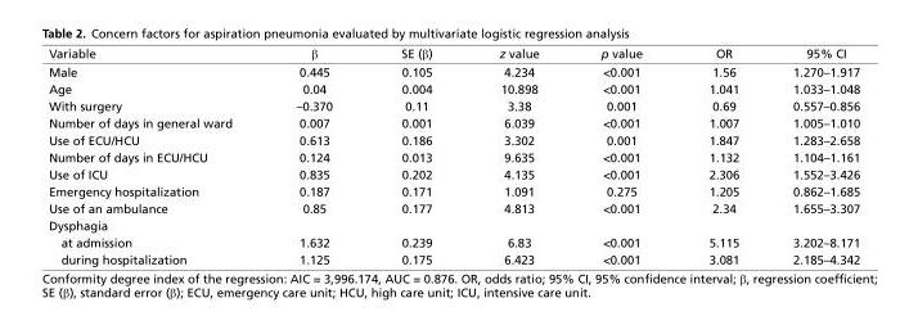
<table><thead><tr><td>Variable</td><td>β</td><td>SE (β)</td><td>z value</td><td>p value</td><td>OR</td><td>95% CI</td></tr></thead><tbody><tr><td>Male</td><td>0.445</td><td>0.105</td><td>4.234</td><td>&lt;0.001</td><td>1.56</td><td>1.270–1.917</td></tr><tr><td>Age</td><td>0.04</td><td>0.004</td><td>10.898</td><td>&lt;0.001</td><td>1.041</td><td>1.033–1.048</td></tr><tr><td>With surgery</td><td>–0.370</td><td>0.11</td><td>3.38</td><td>0.001</td><td>0.69</td><td>0.557–0.856</td></tr><tr><td>Number of days in general ward</td><td>0.007</td><td>0.001</td><td>6.039</td><td>&lt;0.001</td><td>1.007</td><td>1.005–1.010</td></tr><tr><td>Use of ECU/HCU</td><td>0.613</td><td>0.186</td><td>3.302</td><td>0.001</td><td>1.847</td><td>1.283–2.658</td></tr><tr><td>Number of days in ECU/HCU</td><td>0.124</td><td>0.013</td><td>9.635</td><td>&lt;0.001</td><td>1.132</td><td>1.104–1.161</td></tr><tr><td>Use of ICU</td><td>0.835</td><td>0.202</td><td>4.135</td><td>&lt;0.001</td><td>2.306</td><td>1.552–3.426</td></tr><tr><td>Emergency hospitalization</td><td>0.187</td><td>0.171</td><td>1.091</td><td>0.275</td><td>1.205</td><td>0.862–1.685</td></tr><tr><td>Use of an ambulance</td><td>0.85</td><td>0.177</td><td>4.813</td><td>&lt;0.001</td><td>2.34</td><td>1.655–3.307</td></tr><tr><td colspan="7">Dysphagia</td></tr><tr><td>at admission</td><td>1.632</td><td>0.239</td><td>6.83</td><td>&lt;0.001</td><td>5.115</td><td>3.202–8.171</td></tr><tr><td>during hospitalization</td><td>1.125</td><td>0.175</td><td>6.423</td><td>&lt;0.001</td><td>3.081</td><td>2.185–4.342</td></tr></tbody></table>